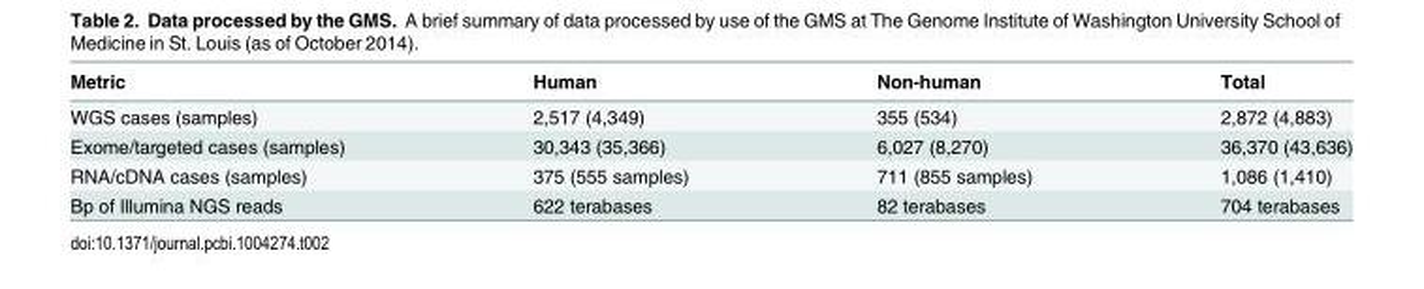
<table><thead><tr><td>Metric</td><td>Human</td><td>Non-human</td><td>Total</td></tr></thead><tbody><tr><td>WGS cases (samples)</td><td>2,517 (4,349)</td><td>355 (534)</td><td>2,872 (4,883)</td></tr><tr><td>Exome/targeted cases (samples)</td><td>30,343 (35,366)</td><td>6,027 (8,270)</td><td>36,370 (43,636)</td></tr><tr><td>RNA/cDNA cases (samples)</td><td>375 (555 samples)</td><td>711 (855 samples)</td><td>1,086 (1,410)</td></tr><tr><td>Bp of Illumina NGS reads</td><td>622 terabases</td><td>82 terabases</td><td>704 terabases</td></tr></tbody></table>